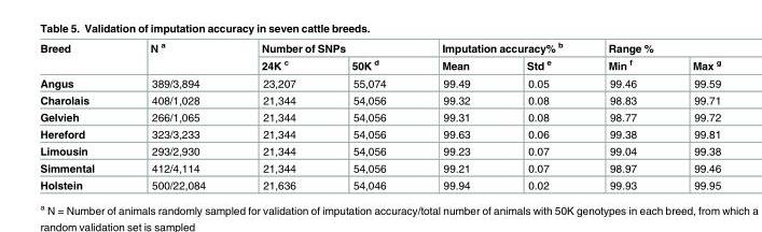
<table><thead><tr><td rowspan="2">Breed</td><td rowspan="2">N <sup>a</sup></td><td colspan="2">Number of SNPs</td><td colspan="2">Imputation accuracy% <sup>b</sup></td><td colspan="2">Range %</td></tr><tr><td>24K <sup>c</sup></td><td>50K <sup>d</sup></td><td>Mean</td><td>Std <sup>e</sup></td><td>Min <sup>f</sup></td><td>Max <sup>g</sup></td></tr></thead><tbody><tr><td>Angus</td><td>389/3,894</td><td>23,207</td><td>55,074</td><td>99.49</td><td>0.05</td><td>99.46</td><td>99.59</td></tr><tr><td>Charolais</td><td>408/1,028</td><td>21,344</td><td>54,056</td><td>99.32</td><td>0.08</td><td>98.83</td><td>99.71</td></tr><tr><td>Gelvieh</td><td>266/1,065</td><td>21,344</td><td>54,056</td><td>99.31</td><td>0.08</td><td>98.77</td><td>99.72</td></tr><tr><td>Hereford</td><td>323/3,233</td><td>21,344</td><td>54,056</td><td>99.63</td><td>0.06</td><td>99.38</td><td>99.81</td></tr><tr><td>Limousin</td><td>293/2,930</td><td>21,344</td><td>54,056</td><td>99.23</td><td>0.07</td><td>99.04</td><td>99.38</td></tr><tr><td>Simmental</td><td>412/4,114</td><td>21,344</td><td>54,056</td><td>99.21</td><td>0.07</td><td>98.97</td><td>99.46</td></tr><tr><td>Holstein</td><td>500/22,084</td><td>21,636</td><td>54,046</td><td>99.94</td><td>0.02</td><td>99.93</td><td>99.95</td></tr></tbody></table>